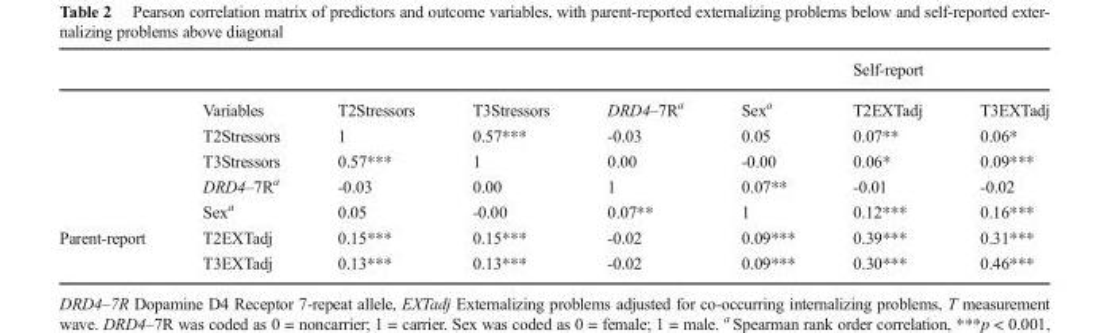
<table><thead><tr><td rowspan="2"></td><td rowspan="2">Variables</td><td rowspan="2">T2Stressors</td><td rowspan="2">T3Stressors</td><td rowspan="2">DRD4–7R<sup>a</sup></td><td rowspan="2">Sex<sup>a</sup></td><td colspan="2">Self-report</td></tr><tr><td>T2EXTadj</td><td>T3EXTadj</td></tr></thead><tbody><tr><td></td><td>T2Stressors</td><td>1</td><td>0.57***</td><td>-0.03</td><td>0.05</td><td>0.07**</td><td>0.06*</td></tr><tr><td></td><td>T3Stressors</td><td>0.57***</td><td>1</td><td>0.00</td><td>-0.00</td><td>0.06*</td><td>0.09***</td></tr><tr><td></td><td>DRD4–7R<sup>a</sup></td><td>-0.03</td><td>0.00</td><td>1</td><td>0.07**</td><td>-0.01</td><td>-0.02</td></tr><tr><td></td><td>Sex<sup>a</sup></td><td>0.05</td><td>-0.00</td><td>0.07**</td><td>1</td><td>0.12***</td><td>0.16***</td></tr><tr><td rowspan="2">Parent-report</td><td>T2EXTadj</td><td>0.15***</td><td>0.15***</td><td>-0.02</td><td>0.09***</td><td>0.39***</td><td>0.31***</td></tr><tr><td>T3EXTadj</td><td>0.13***</td><td>0.13***</td><td>-0.02</td><td>0.09***</td><td>0.30***</td><td>0.46***</td></tr></tbody></table>